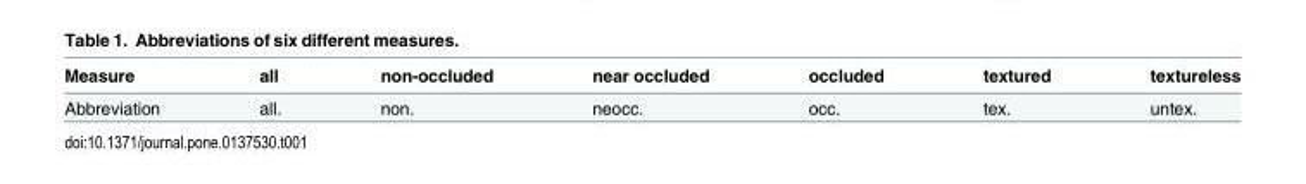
<table><thead><tr><td>Measure</td><td>all</td><td>non-occluded</td><td>near occluded</td><td>occluded</td><td>textured</td><td>textureless</td></tr></thead><tbody><tr><td>Abbreviation</td><td>all.</td><td>non.</td><td>neocc.</td><td>occ.</td><td>tex.</td><td>untex.</td></tr></tbody></table>